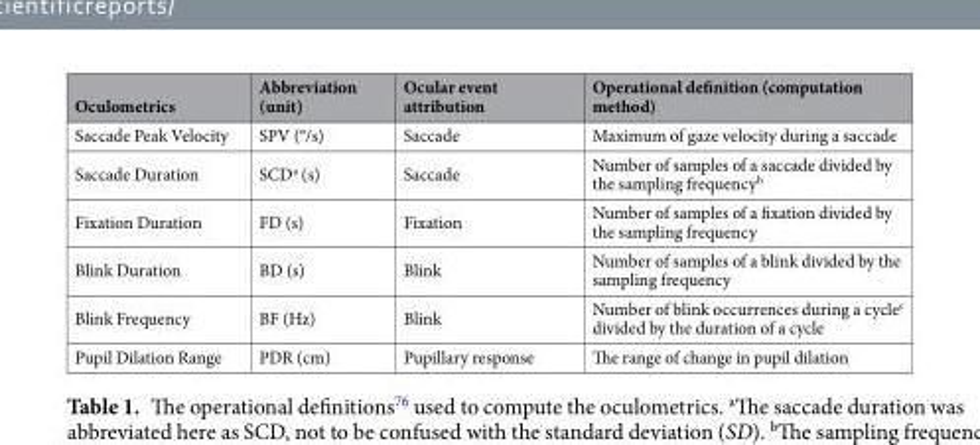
<table><thead><tr><td>Oculometrics</td><td>Abbreviation (unit)</td><td>Ocular event attribution</td><td>Operational definition (computation method)</td></tr></thead><tbody><tr><td>Saccade Peak Velocity</td><td>SPV (°/s)</td><td>Saccade</td><td>Maximum of gaze velocity during a saccade</td></tr><tr><td>Saccade Duration</td><td>SCD<sup>a</sup> (s)</td><td>Saccade</td><td>Number of samples of a saccade divided by the sampling frequency<sup>b</sup></td></tr><tr><td>Fixation Duration</td><td>FD (s)</td><td>Fixation</td><td>Number of samples of a fixation divided by the sampling frequency</td></tr><tr><td>Blink Duration</td><td>BD (s)</td><td>Blink</td><td>Number of samples of a blink divided by the sampling frequency</td></tr><tr><td>Blink Frequency</td><td>BF (Hz)</td><td>Blink</td><td>Number of blink occurrences during a cycle<sup>c</sup> divided by the duration of a cycle</td></tr><tr><td>Pupil Dilation Range</td><td>PDR (cm)</td><td>Pupillary response</td><td>The range of change in pupil dilation</td></tr></tbody></table>